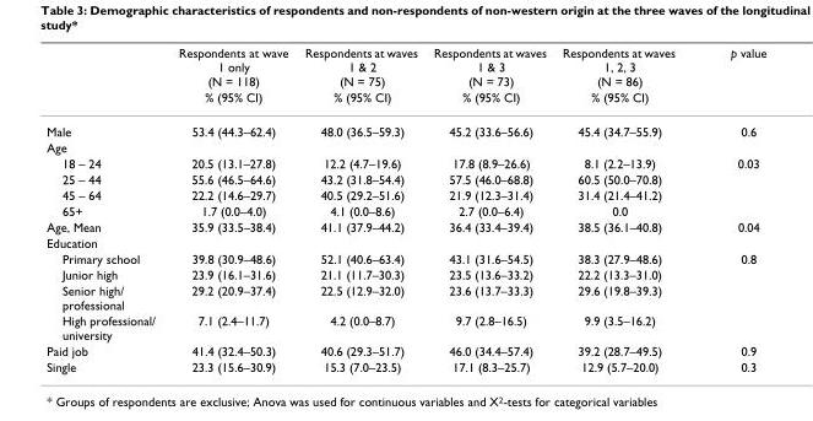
<table><thead><tr><td rowspan="2"></td><td rowspan="2">Respondents at wave 1 only (N = 118) % (95% CI)</td><td rowspan="2">Respondents at waves 1 &amp; 2 (N = 75) % (95% CI)</td><td rowspan="2">Respondents at waves 1 &amp; 3 (N = 73) % (95% CI)</td><td rowspan="2">Respondents at waves 1, 2, 3 (N = 86) % (95% CI)</td><td rowspan="2">p value</td></tr><tr></tr></thead><tbody><tr><td>Male</td><td>53.4 (44.3–62.4)</td><td>48.0 (36.5–59.3)</td><td>45.2 (33.6–56.6)</td><td>45.4 (34.7–55.9)</td><td>0.6</td></tr><tr><td colspan="6">Age</td></tr><tr><td>18 – 24</td><td>20.5 (13.1–27.8)</td><td>12.2 (4.7–19.6)</td><td>17.8 (8.9–26.6)</td><td>8.1 (2.2–13.9)</td><td>0.03</td></tr><tr><td>25 – 44</td><td>55.6 (46.5–64.6)</td><td>43.2 (31.8–54.4)</td><td>57.5 (46.0–68.8)</td><td>60.5 (50.0–70.8)</td><td></td></tr><tr><td>45 – 64</td><td>22.2 (14.6–29.7)</td><td>40.5 (29.2–51.6)</td><td>21.9 (12.3–31.4)</td><td>31.4 (21.4–41.2)</td><td></td></tr><tr><td>65+</td><td>1.7 (0.0–4.0)</td><td>4.1 (0.0–8.6)</td><td>2.7 (0.0–6.4)</td><td>0.0</td><td></td></tr><tr><td>Age, Mean</td><td>35.9 (33.5–38.4)</td><td>41.1 (37.9–44.2)</td><td>36.4 (33.4–39.4)</td><td>38.5 (36.1–40.8)</td><td>0.04</td></tr><tr><td colspan="6">Education</td></tr><tr><td>Primary school</td><td>39.8 (30.9–48.6)</td><td>52.1 (40.6–63.4)</td><td>43.1 (31.6–54.5)</td><td>38.3 (27.9–48.6)</td><td>0.8</td></tr><tr><td>Junior high</td><td>23.9 (16.1–31.6)</td><td>21.1 (11.7–30.3)</td><td>23.5 (13.6–33.2)</td><td>22.2 (13.3–31.0)</td><td></td></tr><tr><td>Senior high/ professional</td><td>29.2 (20.9–37.4)</td><td>22.5 (12.9–32.0)</td><td>23.6 (13.7–33.3)</td><td>29.6 (19.8–39.3)</td><td></td></tr><tr><td>High professional/ university</td><td>7.1 (2.4–11.7)</td><td>4.2 (0.0–8.7)</td><td>9.7 (2.8–16.5)</td><td>9.9 (3.5–16.2)</td><td></td></tr><tr><td>Paid job</td><td>41.4 (32.4–50.3)</td><td>40.6 (29.3–51.7)</td><td>46.0 (34.4–57.4)</td><td>39.2 (28.7–49.5)</td><td>0.9</td></tr><tr><td>Single</td><td>23.3 (15.6–30.9)</td><td>15.3 (7.0–23.5)</td><td>17.1 (8.3–25.7)</td><td>12.9 (5.7–20.0)</td><td>0.3</td></tr></tbody></table>